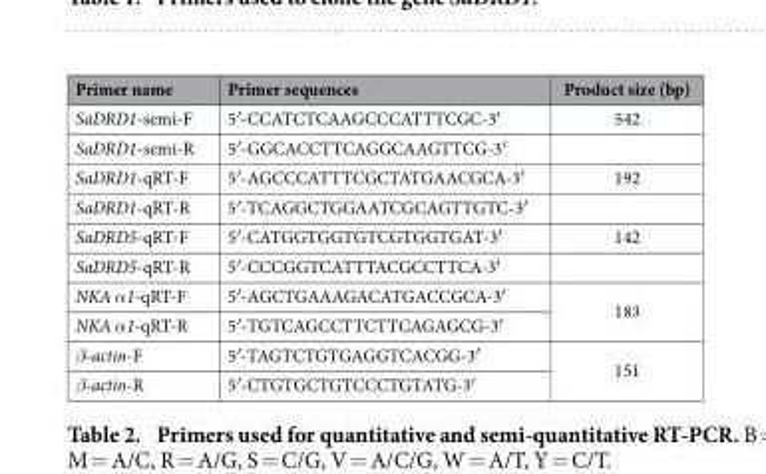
<table><thead><tr><td>Primer name</td><td>Primer sequences</td><td>Product size (bp)</td></tr></thead><tbody><tr><td>SaDRD1-semi-F</td><td>5′ -CCATCTCAAGCCCATTTCGC-3′</td><td>542</td></tr><tr><td>SaDRD1-semi-R</td><td>5′ -GGCACCTTCAGGCAAGTTCG-3′</td><td></td></tr><tr><td>SaDRD1-qRT-F</td><td>5′ -AGCCCATTTCGCTATGAACGCA-3′</td><td>192</td></tr><tr><td>SaDRD1-qRT-R</td><td>5′ -TCAGGCTGGAATCGCAGTTGTC-3′</td><td></td></tr><tr><td>SaDRD5-qRT-F</td><td>5′ -CATGGTGGTGTCGTGGTGAT-3′</td><td>142</td></tr><tr><td>SaDRD5-qRT-R</td><td>5′ -CCCGGTCATTTACGCCTTCA-3′</td><td></td></tr><tr><td>NKA α1-qRT-F</td><td>5′ -AGCTGAAAGACATGACCGCA-3′</td><td rowspan="2">183</td></tr><tr><td>NKA α1-qRT-R</td><td>5′ -TGTCAGCCTTCTTCAGAGCG-3′</td></tr><tr><td>β-actin-F</td><td>5′ -TAGTCTGTGAGGTCACGG-3′</td><td rowspan="2">151</td></tr><tr><td>β-actin-R</td><td>5′ -CTGTGCTGTCCCTGTATG-3′</td></tr></tbody></table>